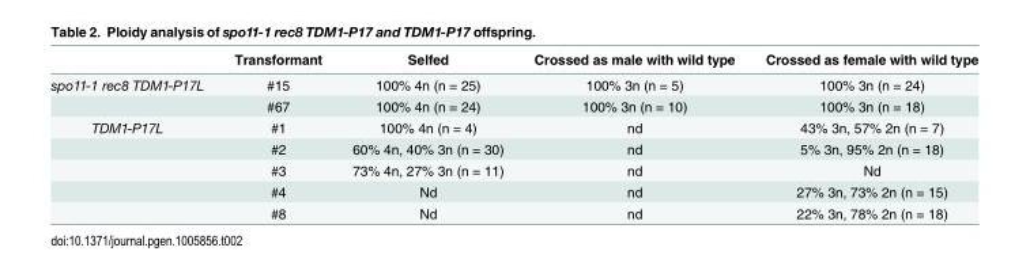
<table><thead><tr><td></td><td>Transformant</td><td>Selfed</td><td>Crossed as male with wild type</td><td>Crossed as female with wild type</td></tr></thead><tbody><tr><td rowspan="2">spo11-1 rec8 TDM1-P17L</td><td>#15</td><td>100% 4n (n = 25)</td><td>100% 3n (n = 5)</td><td>100% 3n (n = 24)</td></tr><tr><td>#67</td><td>100% 4n (n = 24)</td><td>100% 3n (n = 10)</td><td>100% 3n (n = 18)</td></tr><tr><td rowspan="5">TDM1-P17L</td><td>#1</td><td>100% 4n (n = 4)</td><td>nd</td><td>43% 3n, 57% 2n (n = 7)</td></tr><tr><td>#2</td><td>60% 4n, 40% 3n (n = 30)</td><td>nd</td><td>5% 3n, 95% 2n (n = 18)</td></tr><tr><td>#3</td><td>73% 4n, 27% 3n (n = 11)</td><td>nd</td><td>Nd</td></tr><tr><td>#4</td><td>Nd</td><td>nd</td><td>27% 3n, 73% 2n (n = 15)</td></tr><tr><td>#8</td><td>Nd</td><td>nd</td><td>22% 3n, 78% 2n (n = 18)</td></tr></tbody></table>